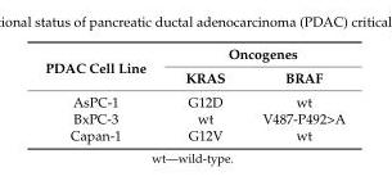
<table><thead><tr><td rowspan="2">PDAC Cell Line</td><td colspan="2">Oncogenes</td></tr><tr><td>KRAS</td><td>BRAF</td></tr></thead><tbody><tr><td>AsPC-1</td><td>G12D</td><td>wt</td></tr><tr><td>BxPC-3</td><td>wt</td><td>V487-P492&gt;A</td></tr><tr><td>Capan-1</td><td>G12V</td><td>wt</td></tr></tbody></table>